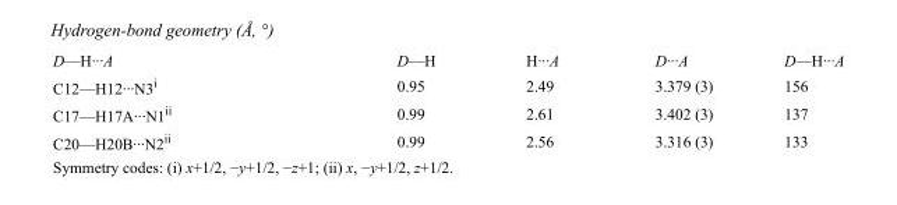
<table><tbody><tr><td>D—H···A</td><td>D—H</td><td>H···A</td><td>D···A</td><td>D—H···A</td></tr><tr><td>C12—H12···N3<sup>i</sup></td><td>0.95</td><td>2.49</td><td>3.379 (3)</td><td>156</td></tr><tr><td>C17—H17A···N1<sup>ii</sup></td><td>0.99</td><td>2.61</td><td>3.402 (3)</td><td>137</td></tr><tr><td>C20—H20B···N2<sup>ii</sup></td><td>0.99</td><td>2.56</td><td>3.316 (3)</td><td>133</td></tr></tbody></table>